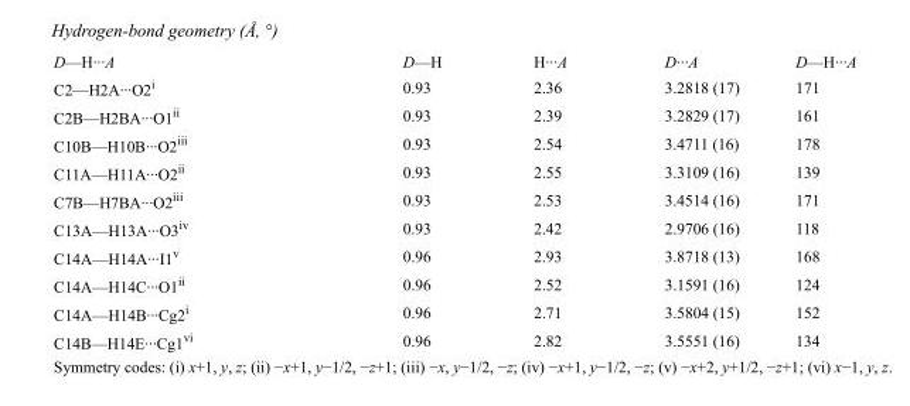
<table><tbody><tr><td>D—H···A</td><td>D—H</td><td>H···A</td><td>D···A</td><td>D—H···A</td></tr><tr><td>C2—H2A···O2<sup>i</sup></td><td>0.93</td><td>2.36</td><td>3.2818 (17)</td><td>171</td></tr><tr><td>C2B—H2BA···O1<sup>ii</sup></td><td>0.93</td><td>2.39</td><td>3.2829 (17)</td><td>161</td></tr><tr><td>C10B—H10B···O2<sup>iii</sup></td><td>0.93</td><td>2.54</td><td>3.4711 (16)</td><td>178</td></tr><tr><td>C11A—H11A···O2<sup>ii</sup></td><td>0.93</td><td>2.55</td><td>3.3109 (16)</td><td>139</td></tr><tr><td>C7B—H7BA···O2<sup>iii</sup></td><td>0.93</td><td>2.53</td><td>3.4514 (16)</td><td>171</td></tr><tr><td>C13A—H13A···O3<sup>iv</sup></td><td>0.93</td><td>2.42</td><td>2.9706 (16)</td><td>118</td></tr><tr><td>C14A—H14A···I1<sup>v</sup></td><td>0.96</td><td>2.93</td><td>3.8718 (13)</td><td>168</td></tr><tr><td>C14A—H14C···O1<sup>ii</sup></td><td>0.96</td><td>2.52</td><td>3.1591 (16)</td><td>124</td></tr><tr><td>C14A—H14B···Cg2<sup>i</sup></td><td>0.96</td><td>2.71</td><td>3.5804 (15)</td><td>152</td></tr><tr><td>C14B—H14E···Cg1<sup>vi</sup></td><td>0.96</td><td>2.82</td><td>3.5551 (16)</td><td>134</td></tr></tbody></table>